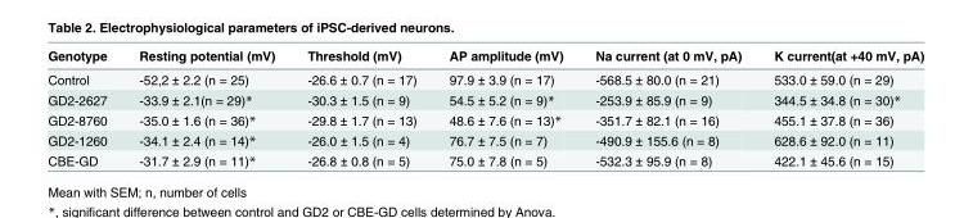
<table><thead><tr><td>Genotype</td><td>Resting potential (mV)</td><td>Threshold (mV)</td><td>AP amplitude (mV)</td><td>Na current (at 0 mV, pA)</td><td>K current(at +40 mV, pA)</td></tr></thead><tbody><tr><td>Control</td><td>-52,2 ± 2.2 (n = 25)</td><td>-26.6 ± 0.7 (n = 17)</td><td>97.9 ± 3.9 (n = 17)</td><td>-568.5 ± 80.0 (n = 21)</td><td>533.0 ± 59.0 (n = 29)</td></tr><tr><td>GD2-2627</td><td>-33.9 ± 2.1(n = 29)*</td><td>-30.3 ± 1.5 (n = 9)</td><td>54.5 ± 5.2 (n = 9)*</td><td>-253.9 ± 85.9 (n = 9)</td><td>344.5 ± 34.8 (n = 30)*</td></tr><tr><td>GD2-8760</td><td>-35.0 ± 1.6 (n = 36)*</td><td>-29.8 ± 1.7 (n = 13)</td><td>48.6 ± 7.6 (n = 13)*</td><td>-351.7 ± 82.1 (n = 16)</td><td>455.1 ± 37.8 (n = 36)</td></tr><tr><td>GD2-1260</td><td>-34.1 ± 2.4 (n = 14)*</td><td>-26.0 ± 1.5 (n = 4)</td><td>76.7 ± 7.5 (n = 7)</td><td>-490.9 ± 155.6 (n = 8)</td><td>628.6 ± 92.0 (n = 11)</td></tr><tr><td>CBE-GD</td><td>-31.7 ± 2.9 (n = 11)*</td><td>-26.8 ± 0.8 (n = 5)</td><td>75.0 ± 7.8 (n = 5)</td><td>-532.3 ± 95.9 (n = 8)</td><td>422.1 ± 45.6 (n = 15)</td></tr></tbody></table>